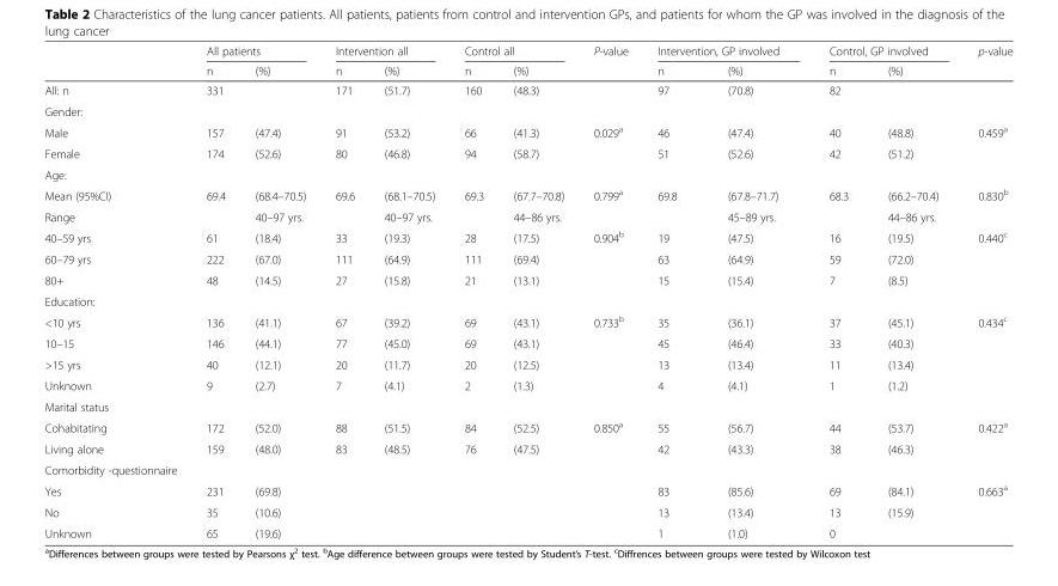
<table><thead><tr><td rowspan="2"></td><td colspan="2">All patients</td><td colspan="2">Intervention all</td><td colspan="2">Control all</td><td rowspan="2">P-value</td><td colspan="2">Intervention, GP involved</td><td colspan="2">Control, GP involved</td><td rowspan="2">p-value</td></tr><tr><td>n</td><td>(%)</td><td>n</td><td>(%)</td><td>n</td><td>(%)</td><td>n</td><td>(%)</td><td>n</td><td>(%)</td></tr></thead><tbody><tr><td>All: n</td><td>331</td><td></td><td>171</td><td>(51.7)</td><td>160</td><td>(48.3)</td><td></td><td>97</td><td>(70.8)</td><td>82</td><td></td><td></td></tr><tr><td colspan="13">Gender:</td></tr><tr><td>Male</td><td>157</td><td>(47.4)</td><td>91</td><td>(53.2)</td><td>66</td><td>(41.3)</td><td>0.029<sup>a</sup></td><td>46</td><td>(47.4)</td><td>40</td><td>(48.8)</td><td>0.459<sup>a</sup></td></tr><tr><td>Female</td><td>174</td><td>(52.6)</td><td>80</td><td>(46.8)</td><td>94</td><td>(58.7)</td><td></td><td>51</td><td>(52.6)</td><td>42</td><td>(51.2)</td><td></td></tr><tr><td colspan="13">Age:</td></tr><tr><td>Mean (95%CI)</td><td>69.4</td><td>(68.4–70.5)</td><td>69.6</td><td>(68.1–70.5)</td><td>69.3</td><td>(67.7–70.8)</td><td>0.799<sup>a</sup></td><td>69.8</td><td>(67.8–71.7)</td><td>68.3</td><td>(66.2–70.4)</td><td>0.830<sup>b</sup></td></tr><tr><td>Range</td><td></td><td>40–97 yrs.</td><td></td><td>40–97 yrs.</td><td></td><td>44–86 yrs.</td><td></td><td></td><td>45–89 yrs.</td><td></td><td>44–86 yrs.</td><td></td></tr><tr><td>40–59 yrs</td><td>61</td><td>(18.4)</td><td>33</td><td>(19.3)</td><td>28</td><td>(17.5)</td><td>0.904<sup>b</sup></td><td>19</td><td>(47.5)</td><td>16</td><td>(19.5)</td><td>0.440<sup>c</sup></td></tr><tr><td>60–79 yrs</td><td>222</td><td>(67.0)</td><td>111</td><td>(64.9)</td><td>111</td><td>(69.4)</td><td></td><td>63</td><td>(64.9)</td><td>59</td><td>(72.0)</td><td></td></tr><tr><td>80+</td><td>48</td><td>(14.5)</td><td>27</td><td>(15.8)</td><td>21</td><td>(13.1)</td><td></td><td>15</td><td>(15.4)</td><td>7</td><td>(8.5)</td><td></td></tr><tr><td colspan="13">Education:</td></tr><tr><td>&lt;10 yrs</td><td>136</td><td>(41.1)</td><td>67</td><td>(39.2)</td><td>69</td><td>(43.1)</td><td>0.733<sup>b</sup></td><td>35</td><td>(36.1)</td><td>37</td><td>(45.1)</td><td>0.434<sup>c</sup></td></tr><tr><td>10–15</td><td>146</td><td>(44.1)</td><td>77</td><td>(45.0)</td><td>69</td><td>(43.1)</td><td></td><td>45</td><td>(46.4)</td><td>33</td><td>(40.3)</td><td></td></tr><tr><td>&gt;15 yrs</td><td>40</td><td>(12.1)</td><td>20</td><td>(11.7)</td><td>20</td><td>(12.5)</td><td></td><td>13</td><td>(13.4)</td><td>11</td><td>(13.4)</td><td></td></tr><tr><td>Unknown</td><td>9</td><td>(2.7)</td><td>7</td><td>(4.1)</td><td>2</td><td>(1.3)</td><td></td><td>4</td><td>(4.1)</td><td>1</td><td>(1.2)</td><td></td></tr><tr><td colspan="13">Marital status</td></tr><tr><td>Cohabitating</td><td>172</td><td>(52.0)</td><td>88</td><td>(51.5)</td><td>84</td><td>(52.5)</td><td>0.850<sup>a</sup></td><td>55</td><td>(56.7)</td><td>44</td><td>(53.7)</td><td>0.422<sup>a</sup></td></tr><tr><td>Living alone</td><td>159</td><td>(48.0)</td><td>83</td><td>(48.5)</td><td>76</td><td>(47.5)</td><td></td><td>42</td><td>(43.3)</td><td>38</td><td>(46.3)</td><td></td></tr><tr><td colspan="13">Comorbidity -questionnaire</td></tr><tr><td>Yes</td><td>231</td><td>(69.8)</td><td></td><td></td><td></td><td></td><td></td><td>83</td><td>(85.6)</td><td>69</td><td>(84.1)</td><td>0.663<sup>a</sup></td></tr><tr><td>No</td><td>35</td><td>(10.6)</td><td></td><td></td><td></td><td></td><td></td><td>13</td><td>(13.4)</td><td>13</td><td>(15.9)</td><td></td></tr><tr><td>Unknown</td><td>65</td><td>(19.6)</td><td></td><td></td><td></td><td></td><td></td><td>1</td><td>(1.0)</td><td>0</td><td></td><td></td></tr></tbody></table>